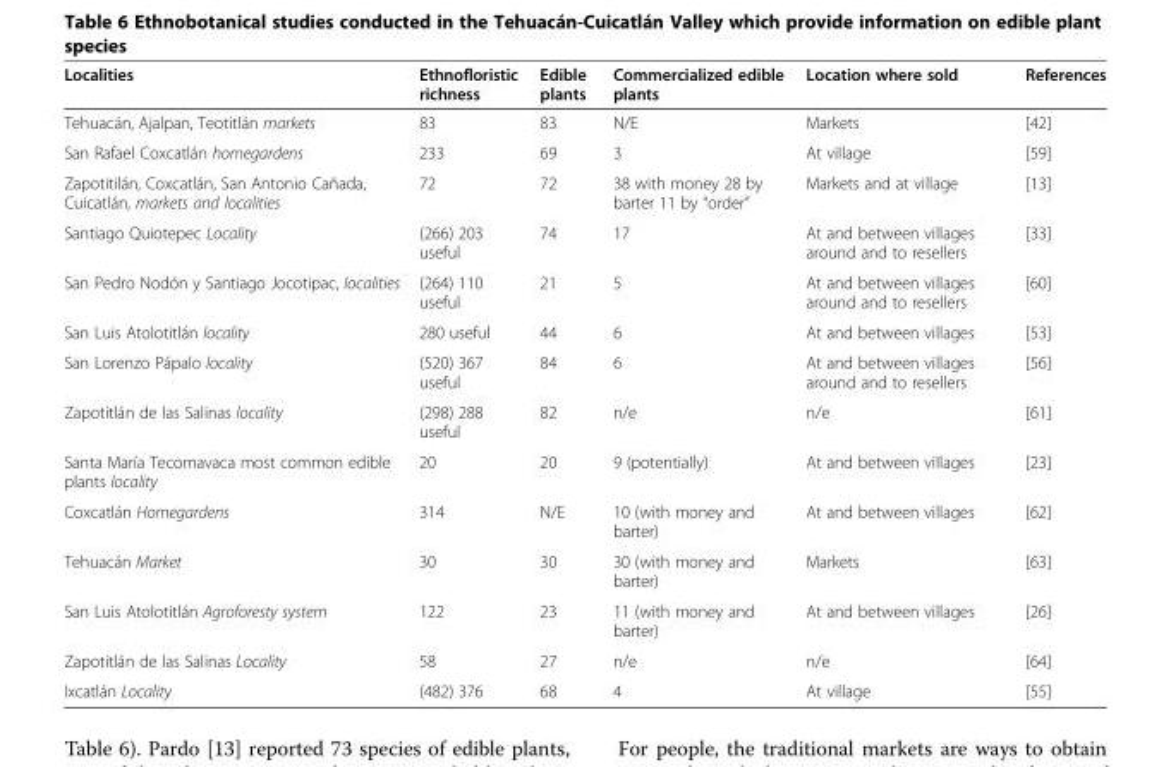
<table><thead><tr><td>Localities</td><td>Ethnofloristic richness</td><td>Edible plants</td><td>Commercialized edible plants</td><td>Location where sold</td><td>References</td></tr></thead><tbody><tr><td>Tehuacán, Ajalpan, Teotitlán markets</td><td>83</td><td>83</td><td>N/E</td><td>Markets</td><td>[42]</td></tr><tr><td>San Rafael Coxcatlán homegardens</td><td>233</td><td>69</td><td>3</td><td>At village</td><td>[59]</td></tr><tr><td>Zapotitilán, Coxcatlán, San Antonio Cañada, Cuicatlán, markets and localities</td><td>72</td><td>72</td><td>38 with money 28 by barter 11 by “order”</td><td>Markets and at village</td><td>[13]</td></tr><tr><td>Santiago Quiotepec Locality</td><td>(266) 203 useful</td><td>74</td><td>17</td><td>At and between villages around and to resellers</td><td>[33]</td></tr><tr><td>San Pedro Nodón y Santiago Jocotipac, localities</td><td>(264) 110 useful</td><td>21</td><td>5</td><td>At and between villages around and to resellers</td><td>[60]</td></tr><tr><td>San Luis Atolotitlán locality</td><td>280 useful</td><td>44</td><td>6</td><td>At and between villages</td><td>[53]</td></tr><tr><td>San Lorenzo Pápalo locality</td><td>(520) 367 useful</td><td>84</td><td>6</td><td>At and between villages around and to resellers</td><td>[56]</td></tr><tr><td>Zapotitlán de las Salinas locality</td><td>(298) 288 useful</td><td>82</td><td>n/e</td><td>n/e</td><td>[61]</td></tr><tr><td>Santa María Tecomavaca most common edible plants locality</td><td>20</td><td>20</td><td>9 (potentially)</td><td>At and between villages</td><td>[23]</td></tr><tr><td>Coxcatlán Homegardens</td><td>314</td><td>N/E</td><td>10 (with money and barter)</td><td>At and between villages</td><td>[62]</td></tr><tr><td>Tehuacán Market</td><td>30</td><td>30</td><td>30 (with money and barter)</td><td>Markets</td><td>[63]</td></tr><tr><td>San Luis Atolotitlán Agroforesty system</td><td>122</td><td>23</td><td>11 (with money and barter)</td><td>At and between villages</td><td>[26]</td></tr><tr><td>Zapotitlán de las Salinas Locality</td><td>58</td><td>27</td><td>n/e</td><td>n/e</td><td>[64]</td></tr><tr><td>Ixcatlán Locality</td><td>(482) 376</td><td>68</td><td>4</td><td>At village</td><td>[55]</td></tr></tbody></table>